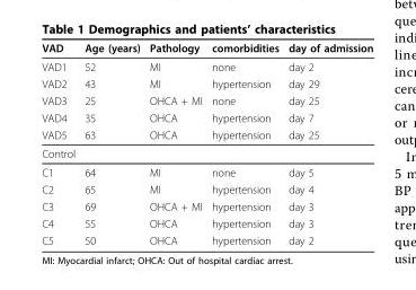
<table><thead><tr><td>VAD</td><td>Age (years)</td><td>Pathology</td><td>comorbidities</td><td>day of admission</td></tr></thead><tbody><tr><td>VAD1</td><td>52</td><td>MI</td><td>none</td><td>day 2</td></tr><tr><td>VAD2</td><td>43</td><td>MI</td><td>hypertension</td><td>day 29</td></tr><tr><td>VAD3</td><td>25</td><td>OHCA + MI</td><td>none</td><td>day 25</td></tr><tr><td>VAD4</td><td>35</td><td>OHCA</td><td>hypertension</td><td>day 7</td></tr><tr><td>VAD5</td><td>63</td><td>OHCA</td><td>hypertension</td><td>day 25</td></tr><tr><td colspan="5">Control</td></tr><tr><td>C1</td><td>64</td><td>MI</td><td>none</td><td>day 5</td></tr><tr><td>C2</td><td>65</td><td>MI</td><td>hypertension</td><td>day 4</td></tr><tr><td>C3</td><td>69</td><td>OHCA + MI</td><td>hypertension</td><td>day 3</td></tr><tr><td>C4</td><td>55</td><td>OHCA</td><td>hypertension</td><td>day 3</td></tr><tr><td>C5</td><td>50</td><td>OHCA</td><td>hypertension</td><td>day 2</td></tr></tbody></table>